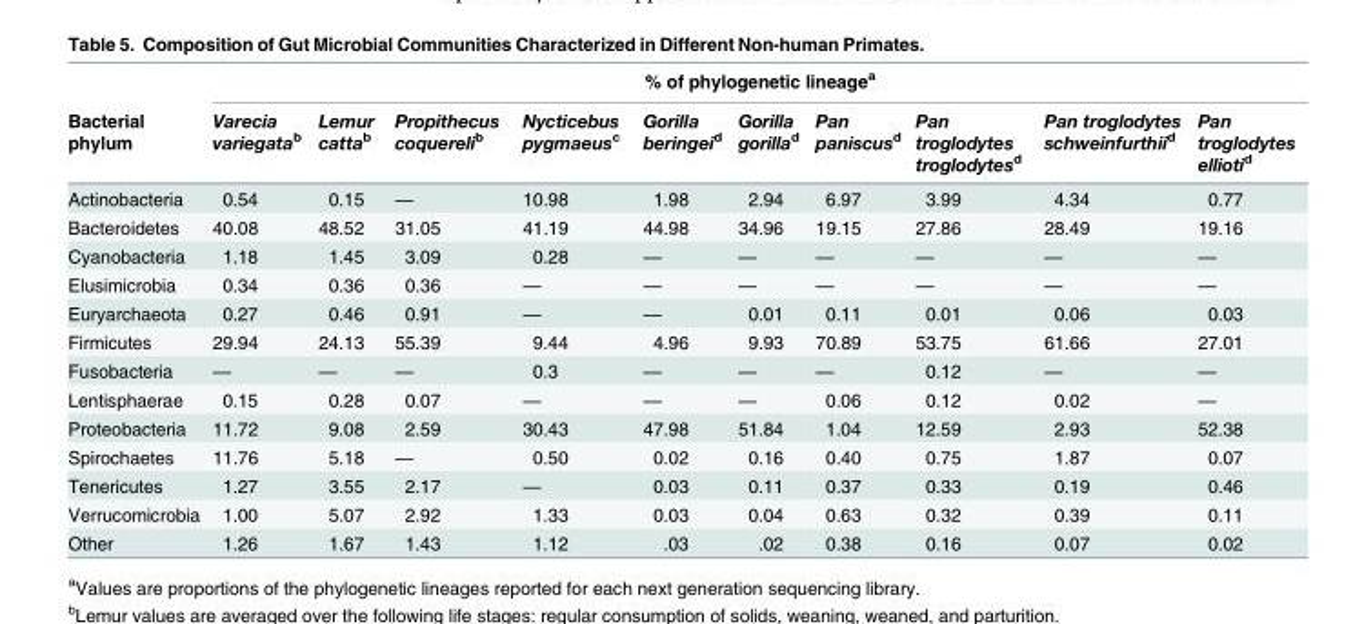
<table><thead><tr><td rowspan="2">Bacterial phylum</td><td colspan="10">% of phylogenetic lineage<sup>a</sup></td></tr><tr><td>Varecia variegata<sup>b</sup></td><td>Lemur catta<sup>b</sup></td><td>Propithecus coquereli<sup>b</sup></td><td>Nycticebus pygmaeus<sup>c</sup></td><td>Gorilla beringei<sup>d</sup></td><td>Gorilla gorilla<sup>d</sup></td><td>Pan paniscus<sup>d</sup></td><td>Pan troglodytes troglodytes<sup>d</sup></td><td>Pan troglodytes schweinfurthii<sup>d</sup></td><td>Pan troglodytes ellioti<sup>d</sup></td></tr></thead><tbody><tr><td>Actinobacteria</td><td>0.54</td><td>0.15</td><td>—</td><td>10.98</td><td>1.98</td><td>2.94</td><td>6.97</td><td>3.99</td><td>4.34</td><td>0.77</td></tr><tr><td>Bacteroidetes</td><td>40.08</td><td>48.52</td><td>31.05</td><td>41.19</td><td>44.98</td><td>34.96</td><td>19.15</td><td>27.86</td><td>28.49</td><td>19.16</td></tr><tr><td>Cyanobacteria</td><td>1.18</td><td>1.45</td><td>3.09</td><td>0.28</td><td>—</td><td>—</td><td>—</td><td>—</td><td>—</td><td>—</td></tr><tr><td>Elusimicrobia</td><td>0.34</td><td>0.36</td><td>0.36</td><td>—</td><td>—</td><td>—</td><td>—</td><td>—</td><td>—</td><td>—</td></tr><tr><td>Euryarchaeota</td><td>0.27</td><td>0.46</td><td>0.91</td><td>—</td><td>—</td><td>0.01</td><td>0.11</td><td>0.01</td><td>0.06</td><td>0.03</td></tr><tr><td>Firmicutes</td><td>29.94</td><td>24.13</td><td>55.39</td><td>9.44</td><td>4.96</td><td>9.93</td><td>70.89</td><td>53.75</td><td>61.66</td><td>27.01</td></tr><tr><td>Fusobacteria</td><td>—</td><td>—</td><td>—</td><td>0.3</td><td>—</td><td>—</td><td>—</td><td>0.12</td><td>—</td><td>—</td></tr><tr><td>Lentisphaerae</td><td>0.15</td><td>0.28</td><td>0.07</td><td>—</td><td>—</td><td>—</td><td>0.06</td><td>0.12</td><td>0.02</td><td>—</td></tr><tr><td>Proteobacteria</td><td>11.72</td><td>9.08</td><td>2.59</td><td>30.43</td><td>47.98</td><td>51.84</td><td>1.04</td><td>12.59</td><td>2.93</td><td>52.38</td></tr><tr><td>Spirochaetes</td><td>11.76</td><td>5.18</td><td>—</td><td>0.50</td><td>0.02</td><td>0.16</td><td>0.40</td><td>0.75</td><td>1.87</td><td>0.07</td></tr><tr><td>Tenericutes</td><td>1.27</td><td>3.55</td><td>2.17</td><td>—</td><td>0.03</td><td>0.11</td><td>0.37</td><td>0.33</td><td>0.19</td><td>0.46</td></tr><tr><td>Verrucomicrobia</td><td>1.00</td><td>5.07</td><td>2.92</td><td>1.33</td><td>0.03</td><td>0.04</td><td>0.63</td><td>0.32</td><td>0.39</td><td>0.11</td></tr><tr><td>Other</td><td>1.26</td><td>1.67</td><td>1.43</td><td>1.12</td><td>.03</td><td>.02</td><td>0.38</td><td>0.16</td><td>0.07</td><td>0.02</td></tr></tbody></table>